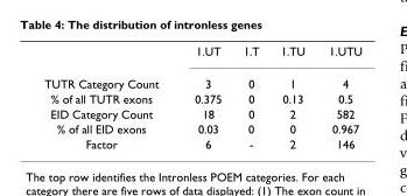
<table><thead><tr><td></td><td>1.UT</td><td>1.T</td><td>1.TU</td><td>1.UTU</td></tr></thead><tbody><tr><td>TUTR Category Count</td><td>3</td><td>0</td><td>1</td><td>4</td></tr><tr><td>% of all TUTR exons</td><td>0.375</td><td>0</td><td>0.13</td><td>0.5</td></tr><tr><td>EID Category Count</td><td>18</td><td>0</td><td>2</td><td>582</td></tr><tr><td>% of all EID exons</td><td>0.03</td><td>0</td><td>0</td><td>0.967</td></tr><tr><td>Factor</td><td>6</td><td>-</td><td>2</td><td>146</td></tr></tbody></table>